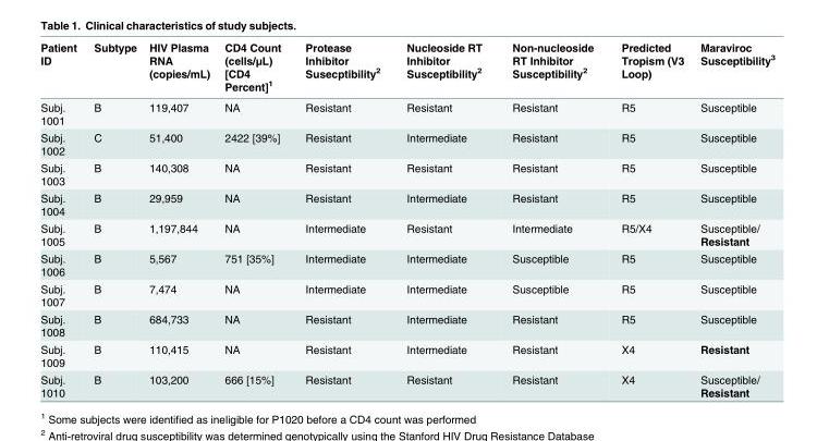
<table><thead><tr><td>Patient ID</td><td>Subtype</td><td>HIV Plasma RNA (copies/mL)</td><td>CD4 Count (cells/μL) [CD4 Percent]<sup>1</sup></td><td>Protease Inhibitor Susecptibility<sup>2</sup></td><td>Nucleoside RT Inhibitor Susceptibility<sup>2</sup></td><td>Non-nucleoside RT Inhibitor Susceptibility<sup>2</sup></td><td>Predicted Tropism (V3 Loop)</td><td>Maraviroc Susceptibility<sup>3</sup></td></tr></thead><tbody><tr><td>Subj. 1001</td><td>B</td><td>119,407</td><td>NA</td><td>Resistant</td><td>Resistant</td><td>Resistant</td><td>R5</td><td>Susceptible</td></tr><tr><td>Subj. 1002</td><td>C</td><td>51,400</td><td>2422 [39%]</td><td>Resistant</td><td>Intermediate</td><td>Resistant</td><td>R5</td><td>Susceptible</td></tr><tr><td>Subj. 1003</td><td>B</td><td>140,308</td><td>NA</td><td>Resistant</td><td>Resistant</td><td>Resistant</td><td>R5</td><td>Susceptible</td></tr><tr><td>Subj. 1004</td><td>B</td><td>29,959</td><td>NA</td><td>Resistant</td><td>Intermediate</td><td>Resistant</td><td>R5</td><td>Susceptible</td></tr><tr><td>Subj. 1005</td><td>B</td><td>1,197,844</td><td>NA</td><td>Intermediate</td><td>Resistant</td><td>Intermediate</td><td>R5/X4</td><td>Susceptible/ Resistant</td></tr><tr><td>Subj. 1006</td><td>B</td><td>5,567</td><td>751 [35%]</td><td>Intermediate</td><td>Intermediate</td><td>Susceptible</td><td>R5</td><td>Susceptible</td></tr><tr><td>Subj. 1007</td><td>B</td><td>7,474</td><td>NA</td><td>Intermediate</td><td>Intermediate</td><td>Susceptible</td><td>R5</td><td>Susceptible</td></tr><tr><td>Subj. 1008</td><td>B</td><td>684,733</td><td>NA</td><td>Resistant</td><td>Intermediate</td><td>Resistant</td><td>R5</td><td>Susceptible</td></tr><tr><td>Subj. 1009</td><td>B</td><td>110,415</td><td>NA</td><td>Resistant</td><td>Intermediate</td><td>Resistant</td><td>X4</td><td>Resistant</td></tr><tr><td>Subj. 1010</td><td>B</td><td>103,200</td><td>666 [15%]</td><td>Resistant</td><td>Resistant</td><td>Resistant</td><td>X4</td><td>Susceptible/ Resistant</td></tr></tbody></table>